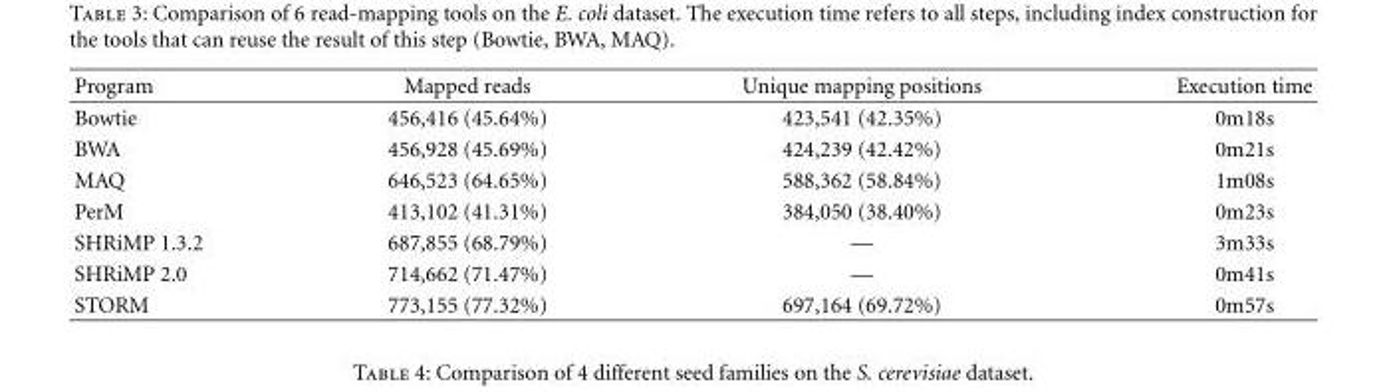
<table><thead><tr><td>Program</td><td>Mapped reads</td><td>Unique mapping positions</td><td>Execution time</td></tr></thead><tbody><tr><td>Bowtie</td><td>456,416 (45.64%)</td><td>423,541 (42.35%)</td><td>0m18s</td></tr><tr><td>BWA</td><td>456,928 (45.69%)</td><td>424,239 (42.42%)</td><td>0m21s</td></tr><tr><td>MAQ</td><td>646,523 (64.65%)</td><td>588,362 (58.84%)</td><td>1m08s</td></tr><tr><td>PerM</td><td>413,102 (41.31%)</td><td>384,050 (38.40%)</td><td>0m23s</td></tr><tr><td>SHRiMP 1.3.2</td><td>687,855 (68.79%)</td><td>—</td><td>3m33s</td></tr><tr><td>SHRiMP 2.0</td><td>714,662 (71.47%)</td><td>—</td><td>0m41s</td></tr><tr><td>STORM</td><td>773,155 (77.32%)</td><td>697,164 (69.72%)</td><td>0m57s</td></tr></tbody></table>